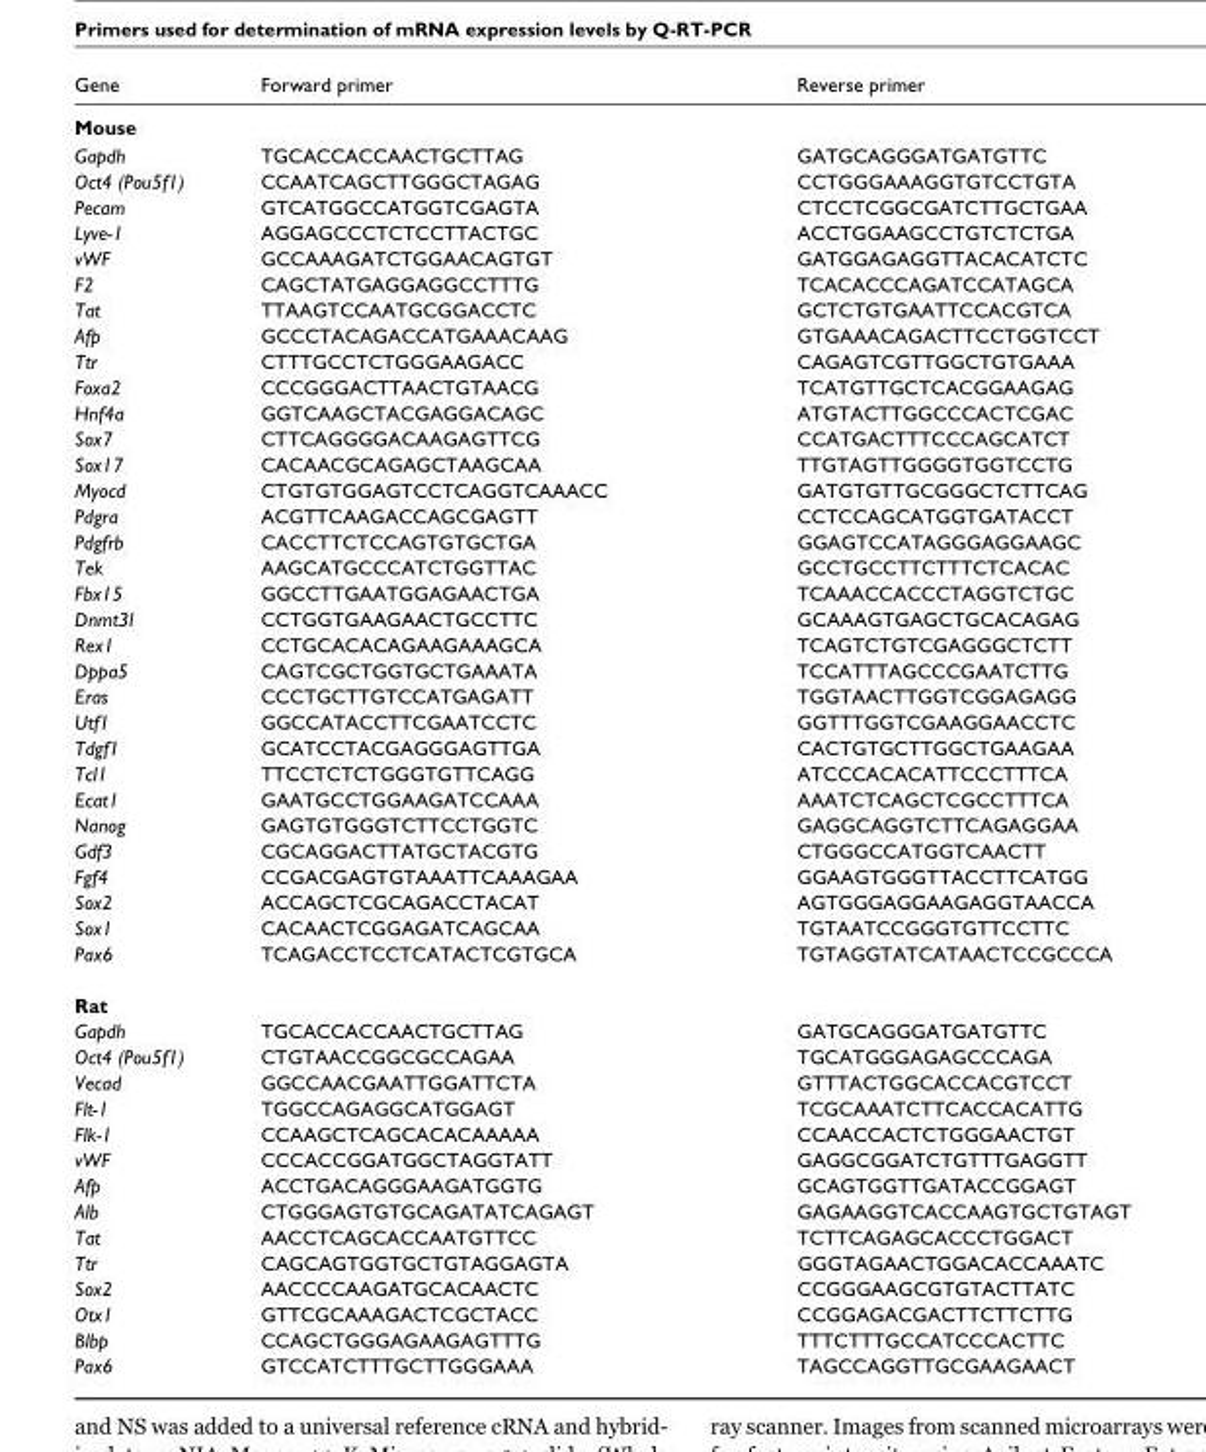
<table><thead><tr><td>Gene</td><td>Forward primer</td><td>Reverse primer</td></tr></thead><tbody><tr><td colspan="3">Mouse</td></tr><tr><td>Gapdh</td><td>TGCACCACCAACTGCTTAG</td><td>GATGCAGGGATGATGTTC</td></tr><tr><td>Oct4 (Pou5f1)</td><td>CCAATCAGCTTGGGCTAGAG</td><td>CCTGGGAAAGGTGTCCTGTA</td></tr><tr><td>Pecam</td><td>GTCATGGCCATGGTCGAGTA</td><td>CTCCTCGGCGATCTTGCTGAA</td></tr><tr><td>Lyve-1</td><td>AGGAGCCCTCTCCTTACTGC</td><td>ACCTGGAAGCCTGTCTCTGA</td></tr><tr><td>vWF</td><td>GCCAAAGATCTGGAACAGTGT</td><td>GATGGAGAGGTTACACATCTC</td></tr><tr><td>F2</td><td>CAGCTATGAGGAGGCCTTTG</td><td>TCACACCCAGATCCATAGCA</td></tr><tr><td>Tat</td><td>TTAAGTCCAATGCGGACCTC</td><td>GCTCTGTGAATTCCACGTCA</td></tr><tr><td>Afp</td><td>GCCCTACAGACCATGAAACAAG</td><td>GTGAAACAGACTTCCTGGTCCT</td></tr><tr><td>Ttr</td><td>CTTTGCCTCTGGGAAGACC</td><td>CAGAGTCGTTGGCTGTGAAA</td></tr><tr><td>Foxa2</td><td>CCCGGGACTTAACTGTAACG</td><td>TCATGTTGCTCACGGAAGAG</td></tr><tr><td>Hnf4a</td><td>GGTCAAGCTACGAGGACAGC</td><td>ATGTACTTGGCCCACTCGAC</td></tr><tr><td>Sox7</td><td>CTTCAGGGGACAAGAGTTCG</td><td>CCATGACTTTCCCAGCATCT</td></tr><tr><td>Sox17</td><td>CACAACGCAGAGCTAAGCAA</td><td>TTGTAGTTGGGGTGGTCCTG</td></tr><tr><td>Myocd</td><td>CTGTGTGGAGTCCTCAGGTCAAACC</td><td>GATGTGTTGCGGGCTCTTCAG</td></tr><tr><td>Pdgra</td><td>ACGTTCAAGACCAGCGAGTT</td><td>CCTCCAGCATGGTGATACCT</td></tr><tr><td>Pdgfrb</td><td>CACCTTCTCCAGTGTGCTGA</td><td>GGAGTCCATAGGGAGGAAGC</td></tr><tr><td>Tek</td><td>AAGCATGCCCATCTGGTTAC</td><td>GCCTGCCTTCTTTCTCACAC</td></tr><tr><td>Fbx15</td><td>GGCCTTGAATGGAGAACTGA</td><td>TCAAACCACCCTAGGTCTGC</td></tr><tr><td>Dnmt3l</td><td>CCTGGTGAAGAACTGCCTTC</td><td>GCAAAGTGAGCTGCACAGAG</td></tr><tr><td>Rex1</td><td>CCTGCACACAGAAGAAAGCA</td><td>TCAGTCTGTCGAGGGCTCTT</td></tr><tr><td>Dppa5</td><td>CAGTCGCTGGTGCTGAAATA</td><td>TCCATTTAGCCCGAATCTTG</td></tr><tr><td>Eras</td><td>CCCTGCTTGTCCATGAGATT</td><td>TGGTAACTTGGTCGGAGAGG</td></tr><tr><td>Utf1</td><td>GGCCATACCTTCGAATCCTC</td><td>GGTTTGGTCGAAGGAACCTC</td></tr><tr><td>Tdgf1</td><td>GCATCCTACGAGGGAGTTGA</td><td>CACTGTGCTTGGCTGAAGAA</td></tr><tr><td>Tcl1</td><td>TTCCTCTCTGGGTGTTCAGG</td><td>ATCCCACACATTCCCTTTCA</td></tr><tr><td>Ecat1</td><td>GAATGCCTGGAAGATCCAAA</td><td>AAATCTCAGCTCGCCTTTCA</td></tr><tr><td>Nanog</td><td>GAGTGTGGGTCTTCCTGGTC</td><td>GAGGCAGGTCTTCAGAGGAA</td></tr><tr><td>Gdf3</td><td>CGCAGGACTTATGCTACGTG</td><td>CTGGGCCATGGTCAACTT</td></tr><tr><td>Fgf4</td><td>CCGACGAGTGTAAATTCAAAGAA</td><td>GGAAGTGGGTTACCTTCATGG</td></tr><tr><td>Sox2</td><td>ACCAGCTCGCAGACCTACAT</td><td>AGTGGGAGGAAGAGGTAACCA</td></tr><tr><td>Sox1</td><td>CACAACTCGGAGATCAGCAA</td><td>TGTAATCCGGGTGTTCCTTC</td></tr><tr><td>Pax6</td><td>TCAGACCTCCTCATACTCGTGCA</td><td>TGTAGGTATCATAACTCCGCCCA</td></tr><tr><td colspan="3">Rat</td></tr><tr><td>Gapdh</td><td>TGCACCACCAACTGCTTAG</td><td>GATGCAGGGATGATGTTC</td></tr><tr><td>Oct4 (Pou5f1)</td><td>CTGTAACCGGCGCCAGAA</td><td>TGCATGGGAGAGCCCAGA</td></tr><tr><td>Vecad</td><td>GGCCAACGAATTGGATTCTA</td><td>GTTTACTGGCACCACGTCCT</td></tr><tr><td>Flt-1</td><td>TGGCCAGAGGCATGGAGT</td><td>TCGCAAATCTTCACCACATTG</td></tr><tr><td>Flk-1</td><td>CCAAGCTCAGCACACAAAAA</td><td>CCAACCACTCTGGGAACTGT</td></tr><tr><td>vWF</td><td>CCCACCGGATGGCTAGGTATT</td><td>GAGGCGGATCTGTTTGAGGTT</td></tr><tr><td>Afp</td><td>ACCTGACAGGGAAGATGGTG</td><td>GCAGTGGTTGATACCGGAGT</td></tr><tr><td>Alb</td><td>CTGGGAGTGTGCAGATATCAGAGT</td><td>GAGAAGGTCACCAAGTGCTGTAGT</td></tr><tr><td>Tat</td><td>AACCTCAGCACCAATGTTCC</td><td>TCTTCAGAGCACCCTGGACT</td></tr><tr><td>Ttr</td><td>CAGCAGTGGTGCTGTAGGAGTA</td><td>GGGTAGAACTGGACACCAAATC</td></tr><tr><td>Sox2</td><td>AACCCCAAGATGCACAACTC</td><td>CCGGGAAGCGTGTACTTATC</td></tr><tr><td>Otx1</td><td>GTTCGCAAAGACTCGCTACC</td><td>CCGGAGACGACTTCTTCTTG</td></tr><tr><td>Blbp</td><td>CCAGCTGGGAGAAGAGTTTG</td><td>TTTCTTTGCCATCCCACTTC</td></tr><tr><td>Pax6</td><td>GTCCATCTTTGCTTGGGAAA</td><td>TAGCCAGGTTGCGAAGAACT</td></tr></tbody></table>